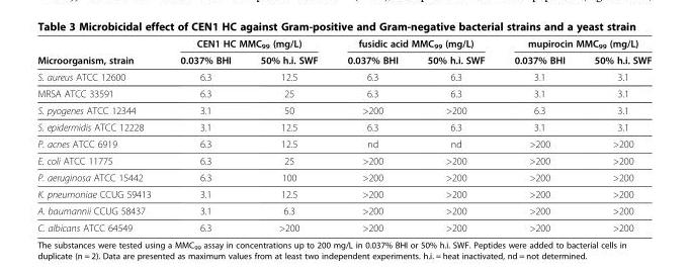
<table><thead><tr><td rowspan="2">Microorganism, strain</td><td colspan="2">CEN1 HC MMC<sub>99</sub> (mg/L)</td><td colspan="2">fusidic acid MMC<sub>99</sub> (mg/L)</td><td colspan="2">mupirocin MMC<sub>99</sub> (mg/L)</td></tr><tr><td>0.037% BHI</td><td>50% h.i. SWF</td><td>0.037% BHI</td><td>50% h.i. SWF</td><td>0.037% BHI</td><td>50% h.i. SWF</td></tr></thead><tbody><tr><td>S. aureus ATCC 12600</td><td>6.3</td><td>12.5</td><td>6.3</td><td>6.3</td><td>3.1</td><td>3.1</td></tr><tr><td>MRSA ATCC 33591</td><td>6.3</td><td>25</td><td>6.3</td><td>6.3</td><td>3.1</td><td>3.1</td></tr><tr><td>S. pyogenes ATCC 12344</td><td>3.1</td><td>50</td><td>&gt;200</td><td>&gt;200</td><td>6.3</td><td>3.1</td></tr><tr><td>S. epidermidis ATCC 12228</td><td>3.1</td><td>12.5</td><td>6.3</td><td>6.3</td><td>3.1</td><td>3.1</td></tr><tr><td>P. acnes ATCC 6919</td><td>6.3</td><td>12.5</td><td>nd</td><td>nd</td><td>&gt;200</td><td>&gt;200</td></tr><tr><td>E. coli ATCC 11775</td><td>6.3</td><td>25</td><td>&gt;200</td><td>&gt;200</td><td>&gt;200</td><td>&gt;200</td></tr><tr><td>P. aeruginosa ATCC 15442</td><td>6.3</td><td>100</td><td>&gt;200</td><td>&gt;200</td><td>&gt;200</td><td>&gt;200</td></tr><tr><td>K. pneumoniae CCUG 59413</td><td>3.1</td><td>12.5</td><td>&gt;200</td><td>&gt;200</td><td>&gt;200</td><td>&gt;200</td></tr><tr><td>A. baumannii CCUG 58437</td><td>3.1</td><td>6.3</td><td>&gt;200</td><td>&gt;200</td><td>&gt;200</td><td>&gt;200</td></tr><tr><td>C. albicans ATCC 64549</td><td>6.3</td><td>&gt;200</td><td>&gt;200</td><td>&gt;200</td><td>&gt;200</td><td>&gt;200</td></tr></tbody></table>